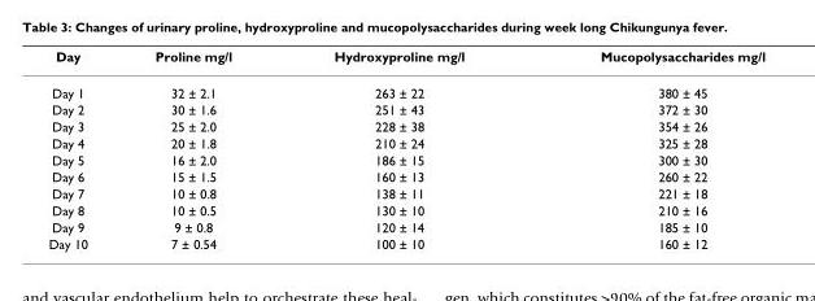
<table><thead><tr><td>Day</td><td>Proline mg/l</td><td>Hydroxyproline mg/l</td><td>Mucopolysaccharides mg/l</td></tr></thead><tbody><tr><td>Day 1</td><td>32 ± 2.1</td><td>263 ± 22</td><td>380 ± 45</td></tr><tr><td>Day 2</td><td>30 ± 1.6</td><td>251 ± 43</td><td>372 ± 30</td></tr><tr><td>Day 3</td><td>25 ± 2.0</td><td>228 ± 38</td><td>354 ± 26</td></tr><tr><td>Day 4</td><td>20 ± 1.8</td><td>210 ± 24</td><td>325 ± 28</td></tr><tr><td>Day 5</td><td>16 ± 2.0</td><td>186 ± 15</td><td>300 ± 30</td></tr><tr><td>Day 6</td><td>15 ± 1.5</td><td>160 ± 13</td><td>260 ± 22</td></tr><tr><td>Day 7</td><td>10 ± 0.8</td><td>138 ± 11</td><td>221 ± 18</td></tr><tr><td>Day 8</td><td>10 ± 0.5</td><td>130 ± 10</td><td>210 ± 16</td></tr><tr><td>Day 9</td><td>9 ± 0.8</td><td>120 ± 14</td><td>185 ± 10</td></tr><tr><td>Day 10</td><td>7 ± 0.54</td><td>100 ± 10</td><td>160 ± 12</td></tr></tbody></table>